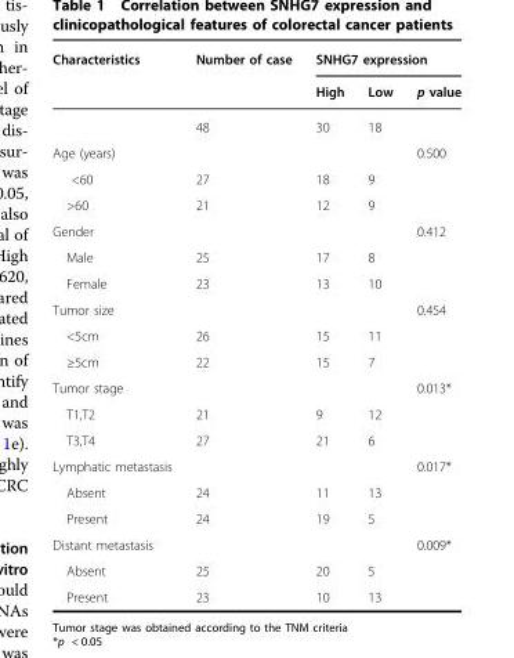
<table><thead><tr><td rowspan="2">Characteristics</td><td rowspan="2">Number of case</td><td colspan="3">SNHG7 expression</td></tr><tr><td>High</td><td>Low</td><td>p value</td></tr></thead><tbody><tr><td></td><td>48</td><td>30</td><td>18</td><td></td></tr><tr><td>Age (years)</td><td></td><td></td><td></td><td>0.500</td></tr><tr><td>&lt;60</td><td>27</td><td>18</td><td>9</td><td></td></tr><tr><td>&gt;60</td><td>21</td><td>12</td><td>9</td><td></td></tr><tr><td>Gender</td><td></td><td></td><td></td><td>0.412</td></tr><tr><td>Male</td><td>25</td><td>17</td><td>8</td><td></td></tr><tr><td>Female</td><td>23</td><td>13</td><td>10</td><td></td></tr><tr><td>Tumor size</td><td></td><td></td><td></td><td>0.454</td></tr><tr><td>&lt;5cm</td><td>26</td><td>15</td><td>11</td><td></td></tr><tr><td>≥5cm</td><td>22</td><td>15</td><td>7</td><td></td></tr><tr><td>Tumor stage</td><td></td><td></td><td></td><td>0.013*</td></tr><tr><td>T1,T2</td><td>21</td><td>9</td><td>12</td><td></td></tr><tr><td>T3,T4</td><td>27</td><td>21</td><td>6</td><td></td></tr><tr><td>Lymphatic metastasis</td><td></td><td></td><td></td><td>0.017*</td></tr><tr><td>Absent</td><td>24</td><td>11</td><td>13</td><td></td></tr><tr><td>Present</td><td>24</td><td>19</td><td>5</td><td></td></tr><tr><td>Distant metastasis</td><td></td><td></td><td></td><td>0.009*</td></tr><tr><td>Absent</td><td>25</td><td>20</td><td>5</td><td></td></tr><tr><td>Present</td><td>23</td><td>10</td><td>13</td><td></td></tr></tbody></table>